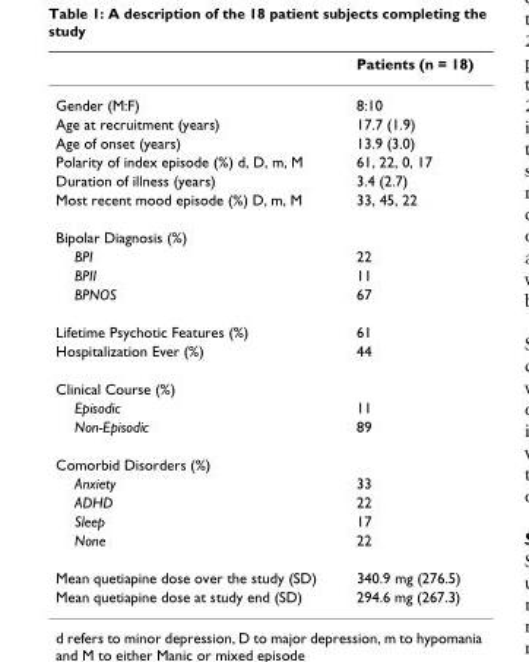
<table><thead><tr><td></td><td>Patients (n = 18)</td></tr></thead><tbody><tr><td>Gender (M:F)</td><td>8:10</td></tr><tr><td>Age at recruitment (years)</td><td>17.7 (1.9)</td></tr><tr><td>Age of onset (years)</td><td>13.9 (3.0)</td></tr><tr><td>Polarity of index episode (%) d, D, m, M</td><td>61, 22, 0, 17</td></tr><tr><td>Duration of illness (years)</td><td>3.4 (2.7)</td></tr><tr><td>Most recent mood episode (%) D, m, M</td><td>33, 45, 22</td></tr><tr><td colspan="2">Bipolar Diagnosis (%)</td></tr><tr><td>BPI</td><td>22</td></tr><tr><td>BPII</td><td>11</td></tr><tr><td>BPNOS</td><td>67</td></tr><tr><td>Lifetime Psychotic Features (%)</td><td>61</td></tr><tr><td>Hospitalization Ever (%)</td><td>44</td></tr><tr><td colspan="2">Clinical Course (%)</td></tr><tr><td>Episodic</td><td>11</td></tr><tr><td>Non-Episodic</td><td>89</td></tr><tr><td colspan="2">Comorbid Disorders (%)</td></tr><tr><td>Anxiety</td><td>33</td></tr><tr><td>ADHD</td><td>22</td></tr><tr><td>Sleep</td><td>17</td></tr><tr><td>None</td><td>22</td></tr><tr><td>Mean quetiapine dose over the study (SD)</td><td>340.9 mg (276.5)</td></tr><tr><td>Mean quetiapine dose at study end (SD)</td><td>294.6 mg (267.3)</td></tr></tbody></table>